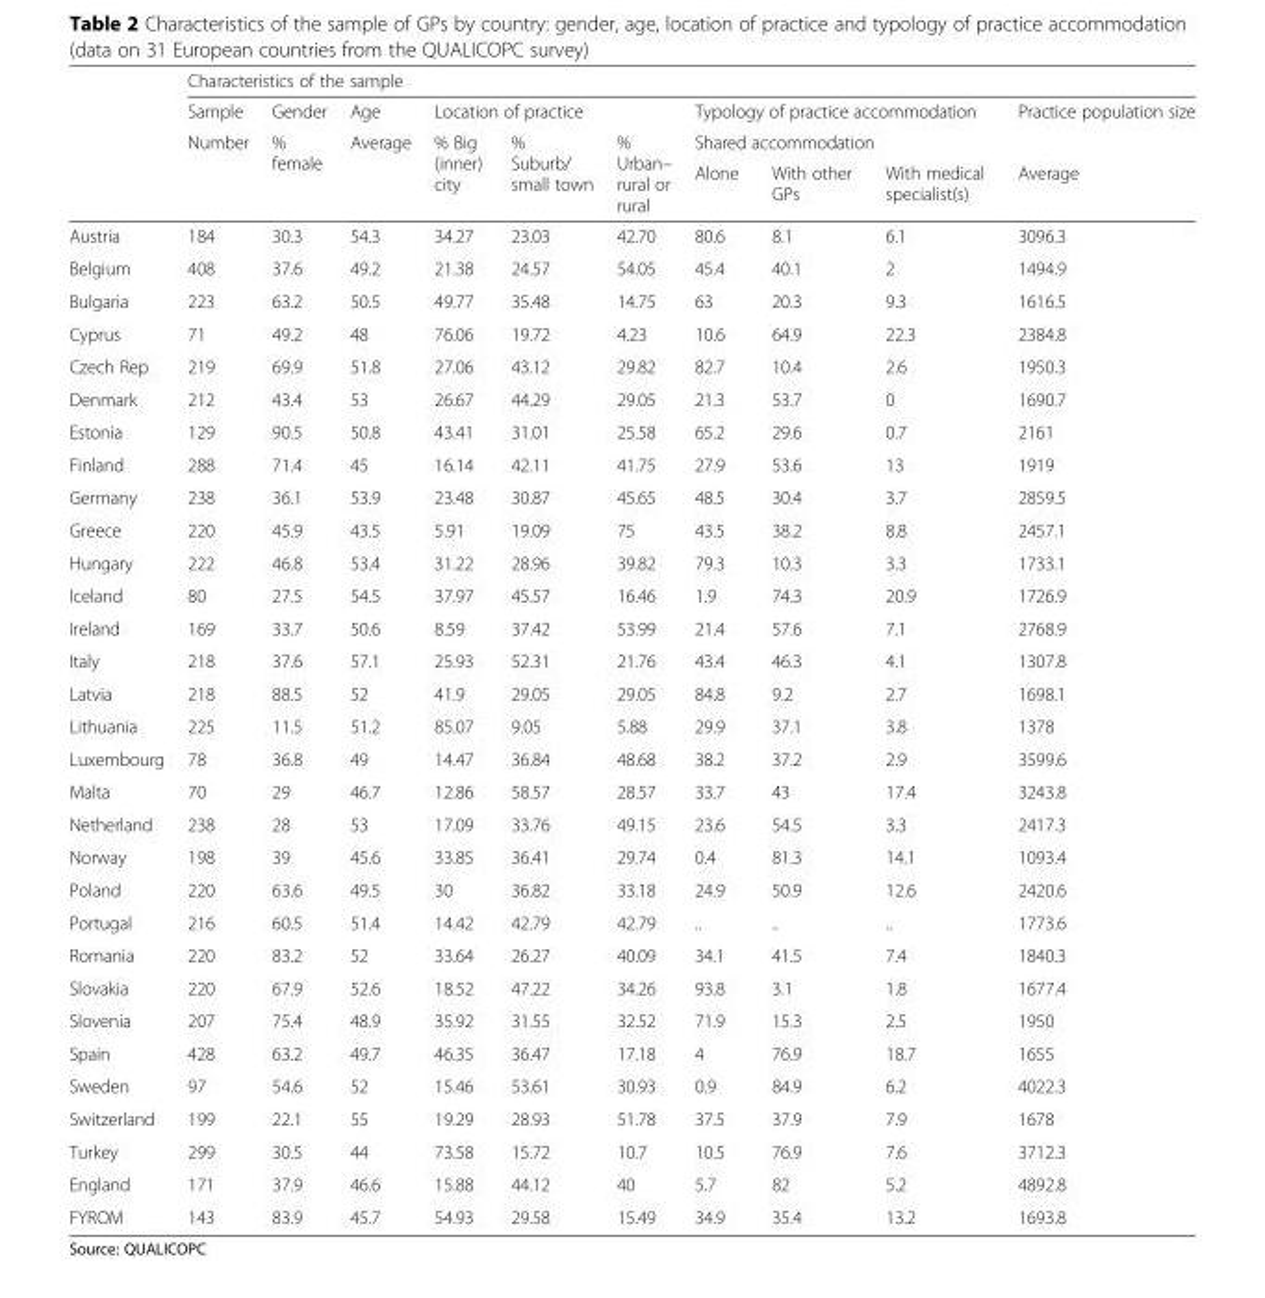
<table><thead><tr><td rowspan="4"></td><td colspan="10">Characteristics of the sample</td></tr><tr><td rowspan="3">Sample Number</td><td rowspan="3">Gender % female</td><td rowspan="3">Age Average</td><td colspan="3">Location of practice</td><td rowspan="2" colspan="3">Typology of practice accommodation Shared accommodation</td><td rowspan="3">Practice population size Average</td></tr><tr><td rowspan="2">% Big (inner) city</td><td rowspan="2">% Suburb/ small town</td><td rowspan="2">% Urban– rural or rural</td></tr><tr><td>Alone</td><td>With other GPs</td><td>With medical specialist(s)</td></tr></thead><tbody><tr><td>Austria</td><td>184</td><td>30.3</td><td>54.3</td><td>34.27</td><td>23.03</td><td>42.70</td><td>80.6</td><td>8.1</td><td>6.1</td><td>3096.3</td></tr><tr><td>Belgium</td><td>408</td><td>37.6</td><td>49.2</td><td>21.38</td><td>24.57</td><td>54.05</td><td>45.4</td><td>40.1</td><td>2</td><td>1494.9</td></tr><tr><td>Bulgaria</td><td>223</td><td>63.2</td><td>50.5</td><td>49.77</td><td>35.48</td><td>14.75</td><td>63</td><td>20.3</td><td>9.3</td><td>1616.5</td></tr><tr><td>Cyprus</td><td>71</td><td>49.2</td><td>48</td><td>76.06</td><td>19.72</td><td>4.23</td><td>10.6</td><td>64.9</td><td>22.3</td><td>2384.8</td></tr><tr><td>Czech Rep</td><td>219</td><td>69.9</td><td>51.8</td><td>27.06</td><td>43.12</td><td>29.82</td><td>82.7</td><td>10.4</td><td>2.6</td><td>1950.3</td></tr><tr><td>Denmark</td><td>212</td><td>43.4</td><td>53</td><td>26.67</td><td>44.29</td><td>29.05</td><td>21.3</td><td>53.7</td><td>0</td><td>1690.7</td></tr><tr><td>Estonia</td><td>129</td><td>90.5</td><td>50.8</td><td>43.41</td><td>31.01</td><td>25.58</td><td>65.2</td><td>29.6</td><td>0.7</td><td>2161</td></tr><tr><td>Finland</td><td>288</td><td>71.4</td><td>45</td><td>16.14</td><td>42.11</td><td>41.75</td><td>27.9</td><td>53.6</td><td>13</td><td>1919</td></tr><tr><td>Germany</td><td>238</td><td>36.1</td><td>53.9</td><td>23.48</td><td>30.87</td><td>45.65</td><td>48.5</td><td>30.4</td><td>3.7</td><td>2859.5</td></tr><tr><td>Greece</td><td>220</td><td>45.9</td><td>43.5</td><td>5.91</td><td>19.09</td><td>75</td><td>43.5</td><td>38.2</td><td>8.8</td><td>2457.1</td></tr><tr><td>Hungary</td><td>222</td><td>46.8</td><td>53.4</td><td>31.22</td><td>28.96</td><td>39.82</td><td>79.3</td><td>10.3</td><td>3.3</td><td>1733.1</td></tr><tr><td>Iceland</td><td>80</td><td>27.5</td><td>54.5</td><td>37.97</td><td>45.57</td><td>16.46</td><td>1.9</td><td>74.3</td><td>20.9</td><td>1726.9</td></tr><tr><td>Ireland</td><td>169</td><td>33.7</td><td>50.6</td><td>8.59</td><td>37.42</td><td>53.99</td><td>21.4</td><td>57.6</td><td>7.1</td><td>2768.9</td></tr><tr><td>Italy</td><td>218</td><td>37.6</td><td>57.1</td><td>25.93</td><td>52.31</td><td>21.76</td><td>43.4</td><td>46.3</td><td>4.1</td><td>1307.8</td></tr><tr><td>Latvia</td><td>218</td><td>88.5</td><td>52</td><td>41.9</td><td>29.05</td><td>29.05</td><td>84.8</td><td>9.2</td><td>2.7</td><td>1698.1</td></tr><tr><td>Lithuania</td><td>225</td><td>11.5</td><td>51.2</td><td>85.07</td><td>9.05</td><td>5.88</td><td>29.9</td><td>37.1</td><td>3.8</td><td>1378</td></tr><tr><td>Luxembourg</td><td>78</td><td>36.8</td><td>49</td><td>14.47</td><td>36.84</td><td>48.68</td><td>38.2</td><td>37.2</td><td>2.9</td><td>3599.6</td></tr><tr><td>Malta</td><td>70</td><td>29</td><td>46.7</td><td>12.86</td><td>58.57</td><td>28.57</td><td>33.7</td><td>43</td><td>17.4</td><td>3243.8</td></tr><tr><td>Netherland</td><td>238</td><td>28</td><td>53</td><td>17.09</td><td>33.76</td><td>49.15</td><td>23.6</td><td>54.5</td><td>3.3</td><td>2417.3</td></tr><tr><td>Norway</td><td>198</td><td>39</td><td>45.6</td><td>33.85</td><td>36.41</td><td>29.74</td><td>0.4</td><td>81.3</td><td>14.1</td><td>1093.4</td></tr><tr><td>Poland</td><td>220</td><td>63.6</td><td>49.5</td><td>30</td><td>36.82</td><td>33.18</td><td>24.9</td><td>50.9</td><td>12.6</td><td>2420.6</td></tr><tr><td>Portugal</td><td>216</td><td>60.5</td><td>51.4</td><td>14.42</td><td>42.79</td><td>42.79</td><td>..</td><td>..</td><td>..</td><td>1773.6</td></tr><tr><td>Romania</td><td>220</td><td>83.2</td><td>52</td><td>33.64</td><td>26.27</td><td>40.09</td><td>34.1</td><td>41.5</td><td>7.4</td><td>1840.3</td></tr><tr><td>Slovakia</td><td>220</td><td>67.9</td><td>52.6</td><td>18.52</td><td>47.22</td><td>34.26</td><td>93.8</td><td>3.1</td><td>1.8</td><td>1677.4</td></tr><tr><td>Slovenia</td><td>207</td><td>75.4</td><td>48.9</td><td>35.92</td><td>31.55</td><td>32.52</td><td>71.9</td><td>15.3</td><td>2.5</td><td>1950</td></tr><tr><td>Spain</td><td>428</td><td>63.2</td><td>49.7</td><td>46.35</td><td>36.47</td><td>17.18</td><td>4</td><td>76.9</td><td>18.7</td><td>1655</td></tr><tr><td>Sweden</td><td>97</td><td>54.6</td><td>52</td><td>15.46</td><td>53.61</td><td>30.93</td><td>0.9</td><td>84.9</td><td>6.2</td><td>4022.3</td></tr><tr><td>Switzerland</td><td>199</td><td>22.1</td><td>55</td><td>19.29</td><td>28.93</td><td>51.78</td><td>37.5</td><td>37.9</td><td>7.9</td><td>1678</td></tr><tr><td>Turkey</td><td>299</td><td>30.5</td><td>44</td><td>73.58</td><td>15.72</td><td>10.7</td><td>10.5</td><td>76.9</td><td>7.6</td><td>3712.3</td></tr><tr><td>England</td><td>171</td><td>37.9</td><td>46.6</td><td>15.88</td><td>44.12</td><td>40</td><td>5.7</td><td>82</td><td>5.2</td><td>4892.8</td></tr><tr><td>FYROM</td><td>143</td><td>83.9</td><td>45.7</td><td>54.93</td><td>29.58</td><td>15.49</td><td>34.9</td><td>35.4</td><td>13.2</td><td>1693.8</td></tr></tbody></table>